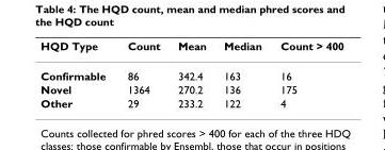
<table><thead><tr><td>HQD Type</td><td>Count</td><td>Mean</td><td>Median</td><td>Count &gt; 400</td></tr></thead><tbody><tr><td>Confirmable</td><td>86</td><td>342.4</td><td>163</td><td>16</td></tr><tr><td>Novel</td><td>1364</td><td>270.2</td><td>136</td><td>175</td></tr><tr><td>Other</td><td>29</td><td>233.2</td><td>122</td><td>4</td></tr></tbody></table>